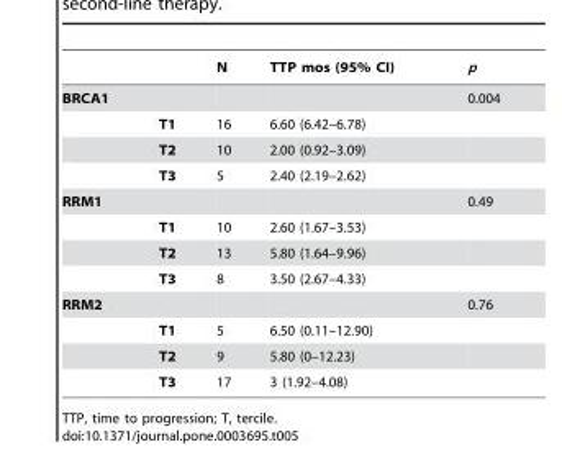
<table><thead><tr><td></td><td></td><td>N</td><td>TTP mos (95% CI)</td><td>p</td></tr></thead><tbody><tr><td rowspan="4">BRCA1</td><td></td><td></td><td></td><td>0.004</td></tr><tr><td>T1</td><td>16</td><td>6.60 (6.42–6.78)</td><td></td></tr><tr><td>T2</td><td>10</td><td>2.00 (0.92–3.09)</td><td></td></tr><tr><td>T3</td><td>5</td><td>2.40 (2.19–2.62)</td><td></td></tr><tr><td rowspan="4">RRM1</td><td></td><td></td><td></td><td>0.49</td></tr><tr><td>T1</td><td>10</td><td>2.60 (1.67–3.53)</td><td></td></tr><tr><td>T2</td><td>13</td><td>5.80 (1.64–9.96)</td><td></td></tr><tr><td>T3</td><td>8</td><td>3.50 (2.67–4.33)</td><td></td></tr><tr><td rowspan="4">RRM2</td><td></td><td></td><td></td><td>0.76</td></tr><tr><td>T1</td><td>5</td><td>6.50 (0.11–12.90)</td><td></td></tr><tr><td>T2</td><td>9</td><td>5.80 (0–12.23)</td><td></td></tr><tr><td>T3</td><td>17</td><td>3 (1.92–4.08)</td><td></td></tr></tbody></table>